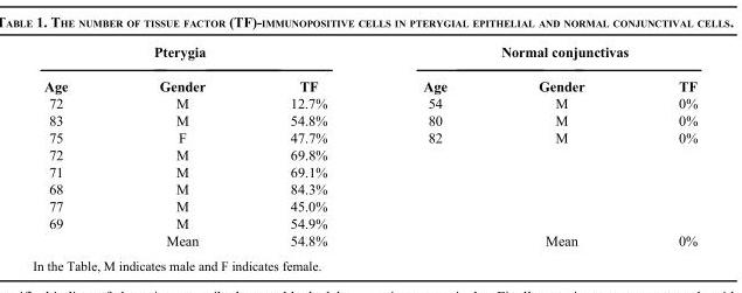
<table><thead><tr><td colspan="3">Pterygia</td><td colspan="3">Normal conjunctivas</td></tr><tr><td>Age</td><td>Gender</td><td>TF</td><td>Age</td><td>Gender</td><td>TF</td></tr></thead><tbody><tr><td>72</td><td>M</td><td>12.7%</td><td>54</td><td>M</td><td>0%</td></tr><tr><td>83</td><td>M</td><td>54.8%</td><td>80</td><td>M</td><td>0%</td></tr><tr><td>75</td><td>F</td><td>47.7%</td><td>82</td><td>M</td><td>0%</td></tr><tr><td>72</td><td>M</td><td>69.8%</td><td></td><td></td><td></td></tr><tr><td>71</td><td>M</td><td>69.1%</td><td></td><td></td><td></td></tr><tr><td>68</td><td>M</td><td>84.3%</td><td></td><td></td><td></td></tr><tr><td>77</td><td>M</td><td>45.0%</td><td></td><td></td><td></td></tr><tr><td rowspan="2">69</td><td>M</td><td>54.9%</td><td></td><td></td><td></td></tr><tr><td>Mean</td><td>54.8%</td><td></td><td>Mean</td><td>0%</td></tr></tbody></table>